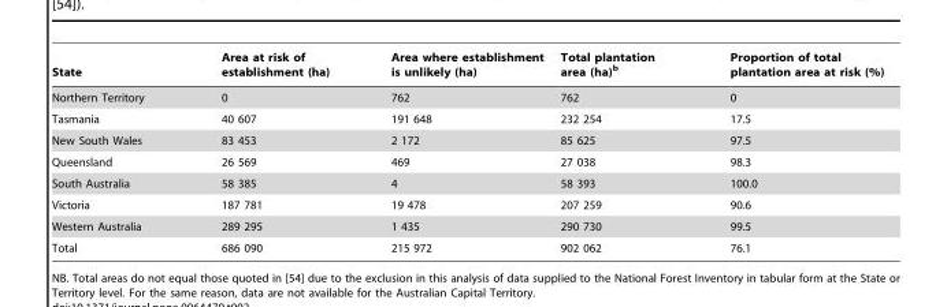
<table><thead><tr><td>State</td><td>Area at risk of establishment (ha)</td><td>Area where establishment is unlikely (ha)</td><td>Total plantation area (ha)<sup>b</sup></td><td>Proportion of total plantation area at risk (%)</td></tr></thead><tbody><tr><td>Northern Territory</td><td>0</td><td>762</td><td>762</td><td>0</td></tr><tr><td>Tasmania</td><td>40 607</td><td>191 648</td><td>232 254</td><td>17.5</td></tr><tr><td>New South Wales</td><td>83 453</td><td>2 172</td><td>85 625</td><td>97.5</td></tr><tr><td>Queensland</td><td>26 569</td><td>469</td><td>27 038</td><td>98.3</td></tr><tr><td>South Australia</td><td>58 385</td><td>4</td><td>58 393</td><td>100.0</td></tr><tr><td>Victoria</td><td>187 781</td><td>19 478</td><td>207 259</td><td>90.6</td></tr><tr><td>Western Australia</td><td>289 295</td><td>1 435</td><td>290 730</td><td>99.5</td></tr><tr><td>Total</td><td>686 090</td><td>215 972</td><td>902 062</td><td>76.1</td></tr></tbody></table>